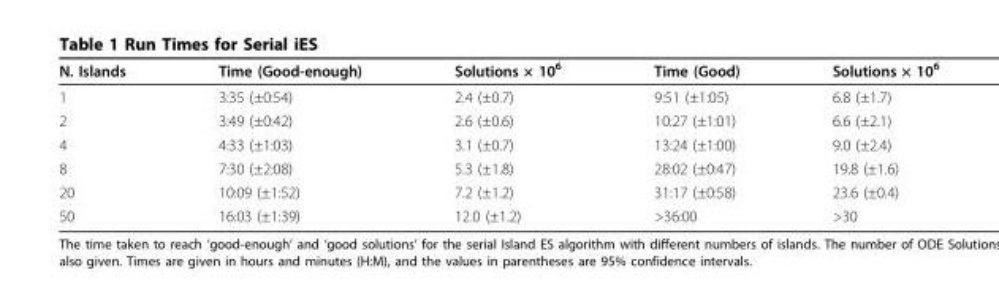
<table><thead><tr><td>N. Islands</td><td>Time (Good-enough)</td><td>Solutions × 10<sup>6</sup></td><td>Time (Good)</td><td>Solutions × 10<sup>6</sup></td></tr></thead><tbody><tr><td>1</td><td>3:35 (±0:54)</td><td>2.4 (±0.7)</td><td>9:51 (±1:05)</td><td>6.8 (±1.7)</td></tr><tr><td>2</td><td>3:49 (±0:42)</td><td>2.6 (±0.6)</td><td>10:27 (±1:01)</td><td>6.6 (±2.1)</td></tr><tr><td>4</td><td>4:33 (±1:03)</td><td>3.1 (±0.7)</td><td>13:24 (±1:00)</td><td>9.0 (±2.4)</td></tr><tr><td>8</td><td>7:30 (±2:08)</td><td>5.3 (±1.8)</td><td>28:02 (±0:47)</td><td>19.8 (±1.6)</td></tr><tr><td>20</td><td>10:09 (±1:52)</td><td>7.2 (±1.2)</td><td>31:17 (±0:58)</td><td>23.6 (±0.4)</td></tr><tr><td>50</td><td>16:03 (±1:39)</td><td>12.0 (±1.2)</td><td>&gt;36:00</td><td>&gt;30</td></tr></tbody></table>